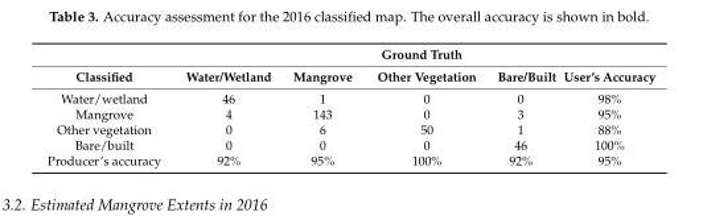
<table><thead><tr><td rowspan="2">Classified</td><td colspan="5">Ground Truth</td></tr><tr><td>Water/Wetland</td><td>Mangrove</td><td>Other Vegetation</td><td>Bare/Built</td><td>User’s Accuracy</td></tr></thead><tbody><tr><td>Water/wetland</td><td>46</td><td>1</td><td>0</td><td>0</td><td>98%</td></tr><tr><td>Mangrove</td><td>4</td><td>143</td><td>0</td><td>3</td><td>95%</td></tr><tr><td>Other vegetation</td><td>0</td><td>6</td><td>50</td><td>1</td><td>88%</td></tr><tr><td>Bare/built</td><td>0</td><td>0</td><td>0</td><td>46</td><td>100%</td></tr><tr><td>Producer’s accuracy</td><td>92%</td><td>95%</td><td>100%</td><td>92%</td><td>95%</td></tr></tbody></table>